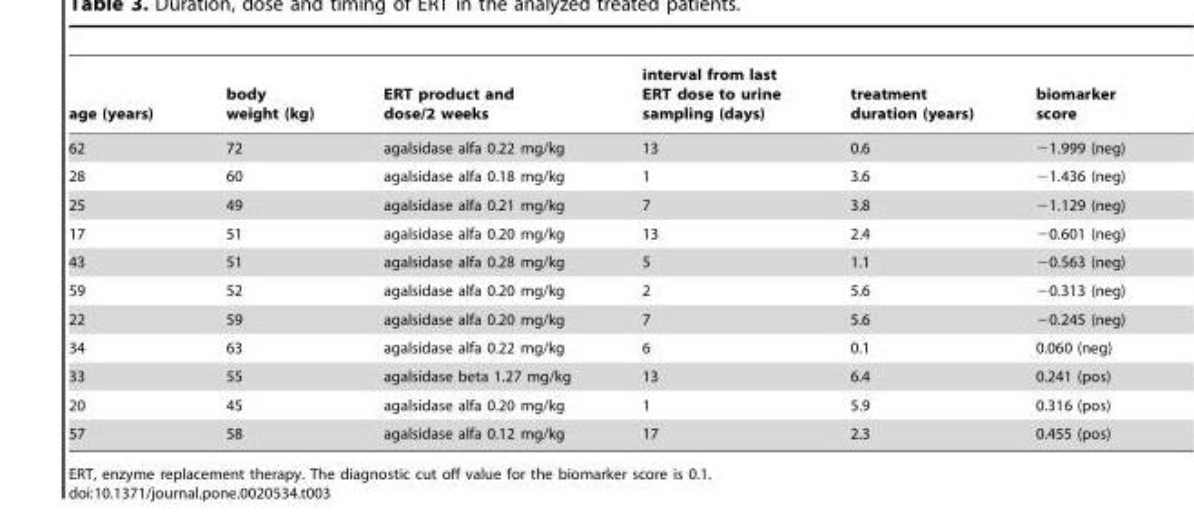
<table><thead><tr><td>age (years)</td><td>body weight (kg)</td><td>ERT product and dose/2 weeks</td><td>interval from last ERT dose to urine sampling (days)</td><td>treatment duration (years)</td><td>biomarker score</td></tr></thead><tbody><tr><td>62</td><td>72</td><td>agalsidase alfa 0.22 mg/kg</td><td>13</td><td>0.6</td><td>−1.999 (neg)</td></tr><tr><td>28</td><td>60</td><td>agalsidase alfa 0.18 mg/kg</td><td>1</td><td>3.6</td><td>−1.436 (neg)</td></tr><tr><td>25</td><td>49</td><td>agalsidase alfa 0.21 mg/kg</td><td>7</td><td>3.8</td><td>−1.129 (neg)</td></tr><tr><td>17</td><td>51</td><td>agalsidase alfa 0.20 mg/kg</td><td>13</td><td>2.4</td><td>−0.601 (neg)</td></tr><tr><td>43</td><td>51</td><td>agalsidase alfa 0.28 mg/kg</td><td>5</td><td>1.1</td><td>−0.563 (neg)</td></tr><tr><td>59</td><td>52</td><td>agalsidase alfa 0.20 mg/kg</td><td>2</td><td>5.6</td><td>−0.313 (neg)</td></tr><tr><td>22</td><td>59</td><td>agalsidase alfa 0.20 mg/kg</td><td>7</td><td>5.6</td><td>−0.245 (neg)</td></tr><tr><td>34</td><td>63</td><td>agalsidase alfa 0.22 mg/kg</td><td>6</td><td>0.1</td><td>0.060 (neg)</td></tr><tr><td>33</td><td>55</td><td>agalsidase beta 1.27 mg/kg</td><td>13</td><td>6.4</td><td>0.241 (pos)</td></tr><tr><td>20</td><td>45</td><td>agalsidase alfa 0.20 mg/kg</td><td>1</td><td>5.9</td><td>0.316 (pos)</td></tr><tr><td>57</td><td>58</td><td>agalsidase alfa 0.12 mg/kg</td><td>17</td><td>2.3</td><td>0.455 (pos)</td></tr></tbody></table>